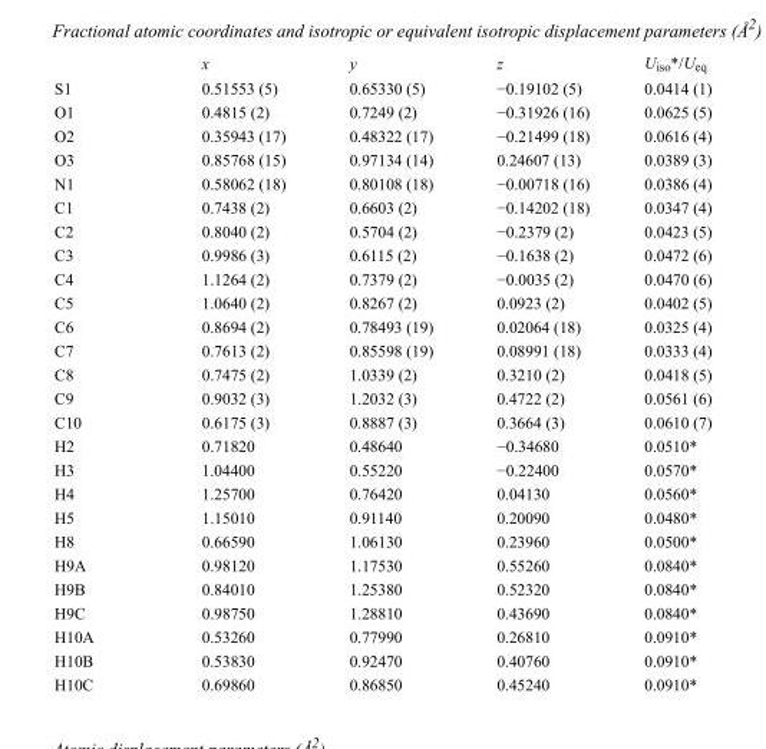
<table><thead><tr><td></td><td>x</td><td>y</td><td>z</td><td>U<sub>iso</sub>*/U<sub>eq</sub></td></tr></thead><tbody><tr><td>S1</td><td>0.51553 (5)</td><td>0.65330 (5)</td><td>−0.19102 (5)</td><td>0.0414 (1)</td></tr><tr><td>O1</td><td>0.4815 (2)</td><td>0.7249 (2)</td><td>−0.31926 (16)</td><td>0.0625 (5)</td></tr><tr><td>O2</td><td>0.35943 (17)</td><td>0.48322 (17)</td><td>−0.21499 (18)</td><td>0.0616 (4)</td></tr><tr><td>O3</td><td>0.85768 (15)</td><td>0.97134 (14)</td><td>0.24607 (13)</td><td>0.0389 (3)</td></tr><tr><td>N1</td><td>0.58062 (18)</td><td>0.80108 (18)</td><td>−0.00718 (16)</td><td>0.0386 (4)</td></tr><tr><td>C1</td><td>0.7438 (2)</td><td>0.6603 (2)</td><td>−0.14202 (18)</td><td>0.0347 (4)</td></tr><tr><td>C2</td><td>0.8040 (2)</td><td>0.5704 (2)</td><td>−0.2379 (2)</td><td>0.0423 (5)</td></tr><tr><td>C3</td><td>0.9986 (3)</td><td>0.6115 (2)</td><td>−0.1638 (2)</td><td>0.0472 (6)</td></tr><tr><td>C4</td><td>1.1264 (2)</td><td>0.7379 (2)</td><td>−0.0035 (2)</td><td>0.0470 (6)</td></tr><tr><td>C5</td><td>1.0640 (2)</td><td>0.8267 (2)</td><td>0.0923 (2)</td><td>0.0402 (5)</td></tr><tr><td>C6</td><td>0.8694 (2)</td><td>0.78493 (19)</td><td>0.02064 (18)</td><td>0.0325 (4)</td></tr><tr><td>C7</td><td>0.7613 (2)</td><td>0.85598 (19)</td><td>0.08991 (18)</td><td>0.0333 (4)</td></tr><tr><td>C8</td><td>0.7475 (2)</td><td>1.0339 (2)</td><td>0.3210 (2)</td><td>0.0418 (5)</td></tr><tr><td>C9</td><td>0.9032 (3)</td><td>1.2032 (3)</td><td>0.4722 (2)</td><td>0.0561 (6)</td></tr><tr><td>C10</td><td>0.6175 (3)</td><td>0.8887 (3)</td><td>0.3664 (3)</td><td>0.0610 (7)</td></tr><tr><td>H2</td><td>0.71820</td><td>0.48640</td><td>−0.34680</td><td>0.0510*</td></tr><tr><td>H3</td><td>1.04400</td><td>0.55220</td><td>−0.22400</td><td>0.0570*</td></tr><tr><td>H4</td><td>1.25700</td><td>0.76420</td><td>0.04130</td><td>0.0560*</td></tr><tr><td>H5</td><td>1.15010</td><td>0.91140</td><td>0.20090</td><td>0.0480*</td></tr><tr><td>H8</td><td>0.66590</td><td>1.06130</td><td>0.23960</td><td>0.0500*</td></tr><tr><td>H9A</td><td>0.98120</td><td>1.17530</td><td>0.55260</td><td>0.0840*</td></tr><tr><td>H9B</td><td>0.84010</td><td>1.25380</td><td>0.52320</td><td>0.0840*</td></tr><tr><td>H9C</td><td>0.98750</td><td>1.28810</td><td>0.43690</td><td>0.0840*</td></tr><tr><td>H10A</td><td>0.53260</td><td>0.77990</td><td>0.26810</td><td>0.0910*</td></tr><tr><td>H10B</td><td>0.53830</td><td>0.92470</td><td>0.40760</td><td>0.0910*</td></tr><tr><td>H10C</td><td>0.69860</td><td>0.86850</td><td>0.45240</td><td>0.0910*</td></tr></tbody></table>